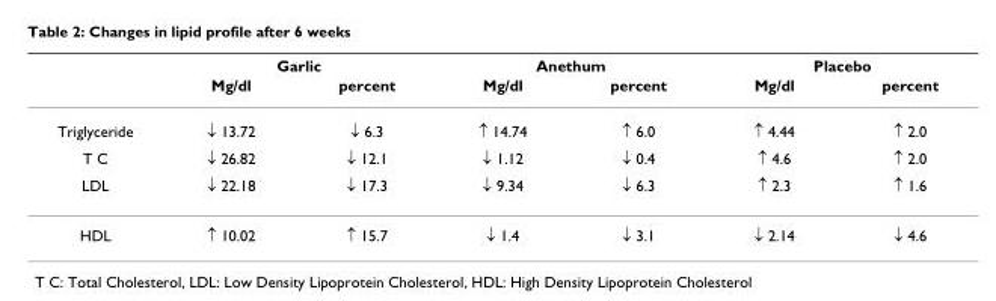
<table><thead><tr><td rowspan="2"></td><td colspan="2">Garlic</td><td colspan="2">Anethum</td><td colspan="2">Placebo</td></tr><tr><td>Mg/dl</td><td>percent</td><td>Mg/dl</td><td>percent</td><td>Mg/dl</td><td>percent</td></tr></thead><tbody><tr><td>Triglyceride</td><td>↓ 13.72</td><td>↓ 6.3</td><td>↑ 14.74</td><td>↑ 6.0</td><td>↑ 4.44</td><td>↑ 2.0</td></tr><tr><td>T C</td><td>↓ 26.82</td><td>↓ 12.1</td><td>↓ 1.12</td><td>↓ 0.4</td><td>↑ 4.6</td><td>↑ 2.0</td></tr><tr><td>LDL</td><td>↓ 22.18</td><td>↓ 17.3</td><td>↓ 9.34</td><td>↓ 6.3</td><td>↑ 2.3</td><td>↑ 1.6</td></tr><tr><td>HDL</td><td>↑ 10.02</td><td>↑ 15.7</td><td>↓ 1.4</td><td>↓ 3.1</td><td>↓ 2.14</td><td>↓ 4.6</td></tr></tbody></table>